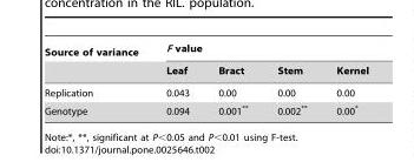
<table><thead><tr><td rowspan="2">Source of variance</td><td colspan="4">F value</td></tr><tr><td>Leaf</td><td>Bract</td><td>Stem</td><td>Kernel</td></tr></thead><tbody><tr><td>Replication</td><td>0.043</td><td>0.00</td><td>0.00</td><td>0.00</td></tr><tr><td>Genotype</td><td>0.094</td><td>0.001**</td><td>0.002**</td><td>0.00*</td></tr></tbody></table>